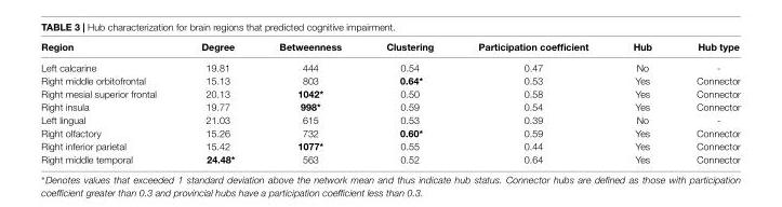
<table><thead><tr><td>Region</td><td>Degree</td><td>Betweenness</td><td>Clustering</td><td>Participation coefficient</td><td>Hub</td><td>Hub type</td></tr></thead><tbody><tr><td>Left calcarine</td><td>19.81</td><td>444</td><td>0.54</td><td>0.47</td><td>No</td><td>-</td></tr><tr><td>Right middle orbitofrontal</td><td>15.13</td><td>803</td><td>0.64*</td><td>0.53</td><td>Yes</td><td>Connector</td></tr><tr><td>Right mesial superior frontal</td><td>20.13</td><td>1042*</td><td>0.50</td><td>0.58</td><td>Yes</td><td>Connector</td></tr><tr><td>Right insula</td><td>19.77</td><td>998*</td><td>0.59</td><td>0.54</td><td>Yes</td><td>Connector</td></tr><tr><td>Left lingual</td><td>21.03</td><td>615</td><td>0.53</td><td>0.39</td><td>No</td><td>-</td></tr><tr><td>Right olfactory</td><td>15.26</td><td>732</td><td>0.60*</td><td>0.59</td><td>Yes</td><td>Connector</td></tr><tr><td>Right inferior parietal</td><td>15.42</td><td>1077*</td><td>0.55</td><td>0.44</td><td>Yes</td><td>Connector</td></tr><tr><td>Right middle temporal</td><td>24.48*</td><td>563</td><td>0.52</td><td>0.64</td><td>Yes</td><td>Connector</td></tr></tbody></table>